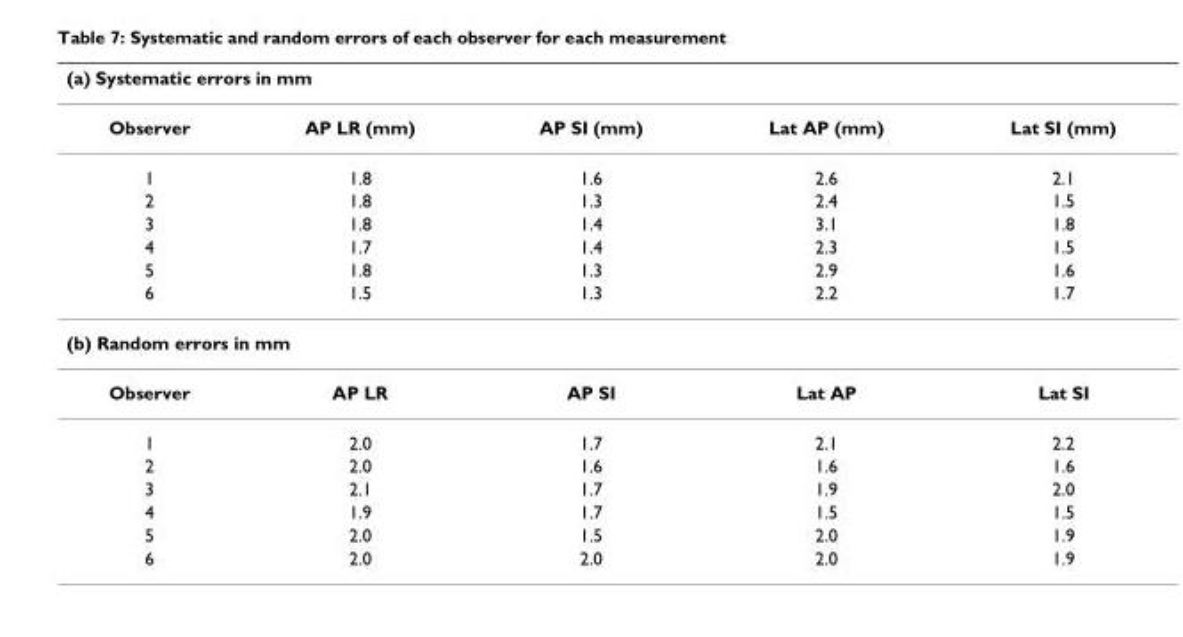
<table><thead><tr><td colspan="5">(a) Systematic errors in mm</td></tr><tr><td>Observer</td><td>AP LR (mm)</td><td>AP SI (mm)</td><td>Lat AP (mm)</td><td>Lat SI (mm)</td></tr></thead><tbody><tr><td>1</td><td>1.8</td><td>1.6</td><td>2.6</td><td>2.1</td></tr><tr><td>2</td><td>1.8</td><td>1.3</td><td>2.4</td><td>1.5</td></tr><tr><td>3</td><td>1.8</td><td>1.4</td><td>3.1</td><td>1.8</td></tr><tr><td>4</td><td>1.7</td><td>1.4</td><td>2.3</td><td>1.5</td></tr><tr><td>5</td><td>1.8</td><td>1.3</td><td>2.9</td><td>1.6</td></tr><tr><td>6</td><td>1.5</td><td>1.3</td><td>2.2</td><td>1.7</td></tr><tr><td colspan="5">(b) Random errors in mm</td></tr><tr><td>Observer</td><td>AP LR</td><td>AP SI</td><td>Lat AP</td><td>Lat SI</td></tr><tr><td>1</td><td>2.0</td><td>1.7</td><td>2.1</td><td>2.2</td></tr><tr><td>2</td><td>2.0</td><td>1.6</td><td>1.6</td><td>1.6</td></tr><tr><td>3</td><td>2.1</td><td>1.7</td><td>1.9</td><td>2.0</td></tr><tr><td>4</td><td>1.9</td><td>1.7</td><td>1.5</td><td>1.5</td></tr><tr><td>5</td><td>2.0</td><td>1.5</td><td>2.0</td><td>1.9</td></tr><tr><td>6</td><td>2.0</td><td>2.0</td><td>2.0</td><td>1.9</td></tr></tbody></table>